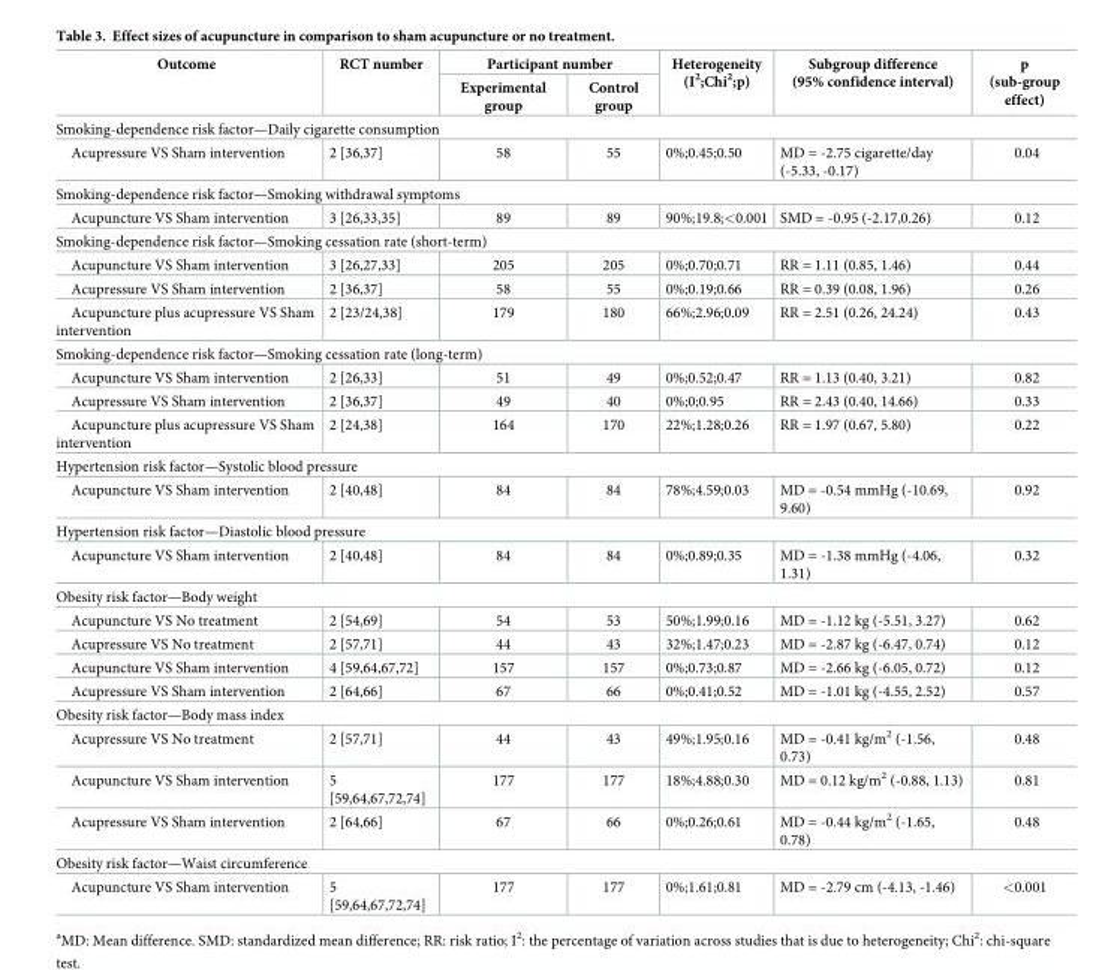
<table><thead><tr><td rowspan="2">Outcome</td><td rowspan="2">RCT number</td><td colspan="2">Participant number</td><td rowspan="2">Heterogeneity (I<sup>2</sup>;Chi<sup>2</sup>;p)</td><td rowspan="2">Subgroup difference (95% confidence interval)</td><td rowspan="2">p (sub-group effect)</td></tr><tr><td>Experimental group</td><td>Control group</td></tr></thead><tbody><tr><td colspan="7">Smoking-dependence risk factor—Daily cigarette consumption</td></tr><tr><td>Acupressure VS Sham intervention</td><td>2 [36,37]</td><td>58</td><td>55</td><td>0%;0.45;0.50</td><td>MD = -2.75 cigarette/day (-5.33, -0.17)</td><td>0.04</td></tr><tr><td colspan="7">Smoking-dependence risk factor—Smoking withdrawal symptoms</td></tr><tr><td>Acupuncture VS Sham intervention</td><td>3 [26,33,35]</td><td>89</td><td>89</td><td>90%;19.8;&lt;0.001</td><td>SMD = -0.95 (-2.17,0.26)</td><td>0.12</td></tr><tr><td colspan="7">Smoking-dependence risk factor—Smoking cessation rate (short-term)</td></tr><tr><td>Acupuncture VS Sham intervention</td><td>3 [26,27,33]</td><td>205</td><td>205</td><td>0%;0.70;0.71</td><td>RR = 1.11 (0.85, 1.46)</td><td>0.44</td></tr><tr><td>Acupressure VS Sham intervention</td><td>2 [36,37]</td><td>58</td><td>55</td><td>0%;0.19;0.66</td><td>RR = 0.39 (0.08, 1.96)</td><td>0.26</td></tr><tr><td>Acupuncture plus acupressure VS Sham intervention</td><td>2 [23/24,38]</td><td>179</td><td>180</td><td>66%;2.96;0.09</td><td>RR = 2.51 (0.26, 24.24)</td><td>0.43</td></tr><tr><td colspan="7">Smoking-dependence risk factor—Smoking cessation rate (long-term)</td></tr><tr><td>Acupuncture VS Sham intervention</td><td>2 [26,33]</td><td>51</td><td>49</td><td>0%;0.52;0.47</td><td>RR = 1.13 (0.40, 3.21)</td><td>0.82</td></tr><tr><td>Acupressure VS Sham intervention</td><td>2 [36,37]</td><td>49</td><td>40</td><td>0%;0;0.95</td><td>RR = 2.43 (0.40, 14.66)</td><td>0.33</td></tr><tr><td>Acupuncture plus acupressure VS Sham intervention</td><td>2 [24,38]</td><td>164</td><td>170</td><td>22%;1.28;0.26</td><td>RR = 1.97 (0.67, 5.80)</td><td>0.22</td></tr><tr><td colspan="7">Hypertension risk factor—Systolic blood pressure</td></tr><tr><td>Acupuncture VS Sham intervention</td><td>2 [40,48]</td><td>84</td><td>84</td><td>78%;4.59;0.03</td><td>MD = -0.54 mmHg (-10.69, 9.60)</td><td>0.92</td></tr><tr><td colspan="7">Hypertension risk factor—Diastolic blood pressure</td></tr><tr><td>Acupuncture VS Sham intervention</td><td>2 [40,48]</td><td>84</td><td>84</td><td>0%;0.89;0.35</td><td>MD = -1.38 mmHg (-4.06, 1.31)</td><td>0.32</td></tr><tr><td colspan="7">Obesity risk factor—Body weight</td></tr><tr><td>Acupuncture VS No treatment</td><td>2 [54,69]</td><td>54</td><td>53</td><td>50%;1.99;0.16</td><td>MD = -1.12 kg (-5.51, 3.27)</td><td>0.62</td></tr><tr><td>Acupressure VS No treatment</td><td>2 [57,71]</td><td>44</td><td>43</td><td>32%;1.47;0.23</td><td>MD = -2.87 kg (-6.47, 0.74)</td><td>0.12</td></tr><tr><td>Acupuncture VS Sham intervention</td><td>4 [59,64,67,72]</td><td>157</td><td>157</td><td>0%;0.73;0.87</td><td>MD = -2.66 kg (-6.05, 0.72)</td><td>0.12</td></tr><tr><td>Acupressure VS Sham intervention</td><td>2 [64,66]</td><td>67</td><td>66</td><td>0%;0.41;0.52</td><td>MD = -1.01 kg (-4.55, 2.52)</td><td>0.57</td></tr><tr><td colspan="7">Obesity risk factor—Body mass index</td></tr><tr><td>Acupressure VS No treatment</td><td>2 [57,71]</td><td>44</td><td>43</td><td>49%;1.95;0.16</td><td>MD = -0.41 kg/m<sup>2</sup> (-1.56, 0.73)</td><td>0.48</td></tr><tr><td>Acupuncture VS Sham intervention</td><td>5 [59,64,67,72,74]</td><td>177</td><td>177</td><td>18%;4.88;0.30</td><td>MD = 0.12 kg/m<sup>2</sup> (-0.88, 1.13)</td><td>0.81</td></tr><tr><td>Acupressure VS Sham intervention</td><td>2 [64,66]</td><td>67</td><td>66</td><td>0%;0.26;0.61</td><td>MD = -0.44 kg/m<sup>2</sup> (-1.65, 0.78)</td><td>0.48</td></tr><tr><td colspan="7">Obesity risk factor—Waist circumference</td></tr><tr><td>Acupuncture VS Sham intervention</td><td>5 [59,64,67,72,74]</td><td>177</td><td>177</td><td>0%;1.61;0.81</td><td>MD = -2.79 cm (-4.13, -1.46)</td><td>&lt;0.001</td></tr></tbody></table>